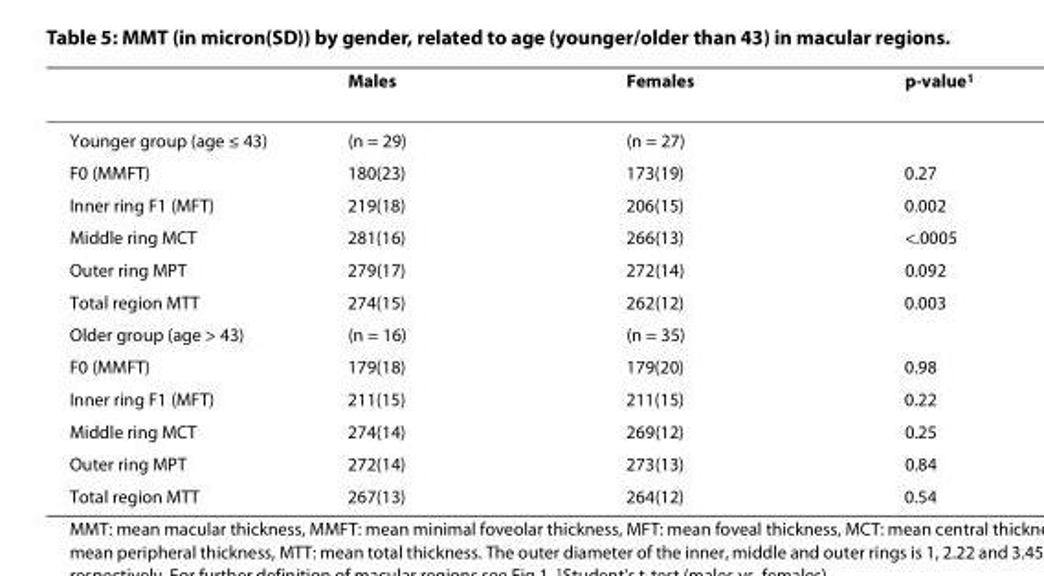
<table><thead><tr><td></td><td>Males</td><td>Females</td><td>p-value<sup>1</sup></td></tr></thead><tbody><tr><td>Younger group (age ≤ 43)</td><td>(n = 29)</td><td>(n = 27)</td><td></td></tr><tr><td>F0 (MMFT)</td><td>180(23)</td><td>173(19)</td><td>0.27</td></tr><tr><td>Inner ring F1 (MFT)</td><td>219(18)</td><td>206(15)</td><td>0.002</td></tr><tr><td>Middle ring MCT</td><td>281(16)</td><td>266(13)</td><td>&lt;.0005</td></tr><tr><td>Outer ring MPT</td><td>279(17)</td><td>272(14)</td><td>0.092</td></tr><tr><td>Total region MTT</td><td>274(15)</td><td>262(12)</td><td>0.003</td></tr><tr><td>Older group (age &gt; 43)</td><td>(n = 16)</td><td>(n = 35)</td><td></td></tr><tr><td>F0 (MMFT)</td><td>179(18)</td><td>179(20)</td><td>0.98</td></tr><tr><td>Inner ring F1 (MFT)</td><td>211(15)</td><td>211(15)</td><td>0.22</td></tr><tr><td>Middle ring MCT</td><td>274(14)</td><td>269(12)</td><td>0.25</td></tr><tr><td>Outer ring MPT</td><td>272(14)</td><td>273(13)</td><td>0.84</td></tr><tr><td>Total region MTT</td><td>267(13)</td><td>264(12)</td><td>0.54</td></tr></tbody></table>